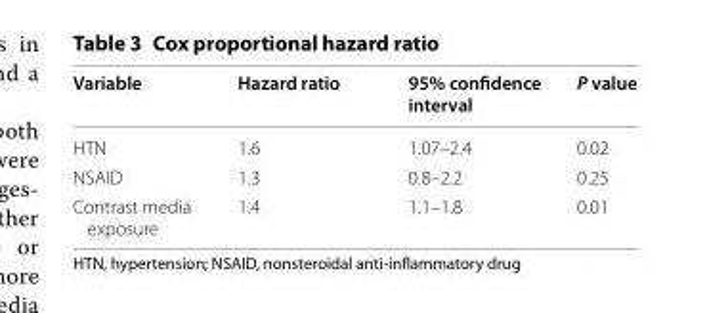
<table><thead><tr><td>Variable</td><td>Hazard ratio</td><td>95% confidence interval</td><td>P value</td></tr></thead><tbody><tr><td>HTN</td><td>1.6</td><td>1.07–2.4</td><td>0.02</td></tr><tr><td>NSAID</td><td>1.3</td><td>0.8–2.2</td><td>0.25</td></tr><tr><td>Contrast media exposure</td><td>1.4</td><td>1.1–1.8</td><td>0.01</td></tr></tbody></table>